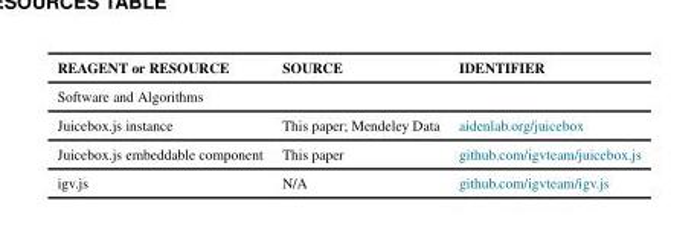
<table><thead><tr><td>REAGENT or RESOURCE</td><td>SOURCE</td><td>IDENTIFIER</td></tr></thead><tbody><tr><td colspan="3">Software and Algorithms</td></tr><tr><td>Juicebox.js instance</td><td>This paper; Mendeley Data</td><td>aidenlab.org/juicebox</td></tr><tr><td>Juicebox.js embeddable component</td><td>This paper</td><td>github.com/igvteam/juicebox.js</td></tr><tr><td>igv.js</td><td>N/A</td><td>github.com/igvteam/igv.js</td></tr></tbody></table>